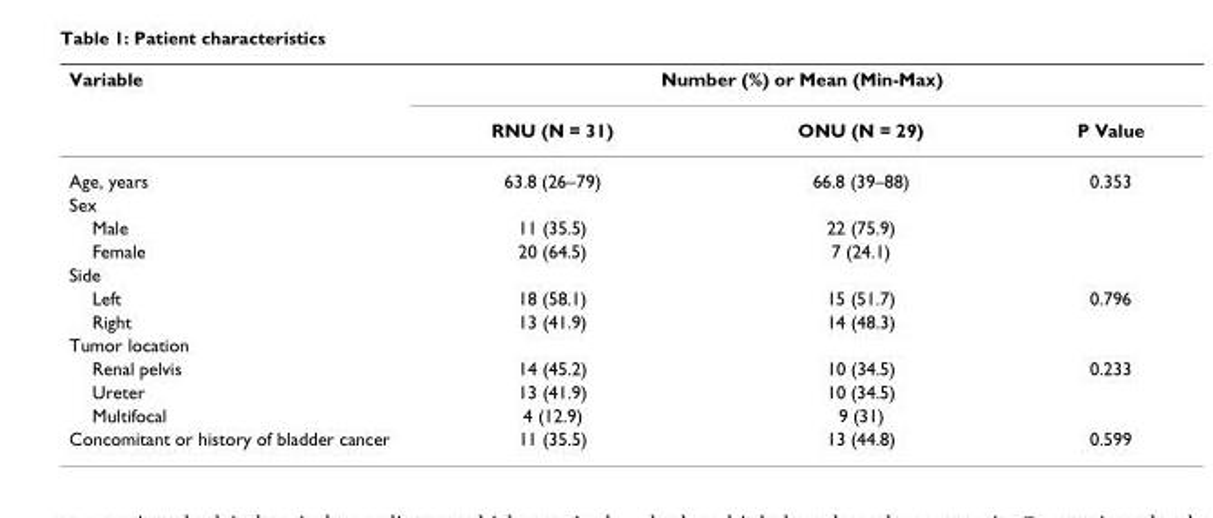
<table><thead><tr><td rowspan="2">Variable</td><td colspan="3">Number (%) or Mean (Min-Max)</td></tr><tr><td>RNU (N = 31)</td><td>ONU (N = 29)</td><td>P Value</td></tr></thead><tbody><tr><td>Age, years</td><td>63.8 (26–79)</td><td>66.8 (39–88)</td><td>0.353</td></tr><tr><td colspan="4">Sex</td></tr><tr><td>Male</td><td>11 (35.5)</td><td>22 (75.9)</td><td></td></tr><tr><td>Female</td><td>20 (64.5)</td><td>7 (24.1)</td><td></td></tr><tr><td colspan="4">Side</td></tr><tr><td>Left</td><td>18 (58.1)</td><td>15 (51.7)</td><td>0.796</td></tr><tr><td>Right</td><td>13 (41.9)</td><td>14 (48.3)</td><td></td></tr><tr><td colspan="4">Tumor location</td></tr><tr><td>Renal pelvis</td><td>14 (45.2)</td><td>10 (34.5)</td><td>0.233</td></tr><tr><td>Ureter</td><td>13 (41.9)</td><td>10 (34.5)</td><td></td></tr><tr><td>Multifocal</td><td>4 (12.9)</td><td>9 (31)</td><td></td></tr><tr><td>Concomitant or history of bladder cancer</td><td>11 (35.5)</td><td>13 (44.8)</td><td>0.599</td></tr></tbody></table>